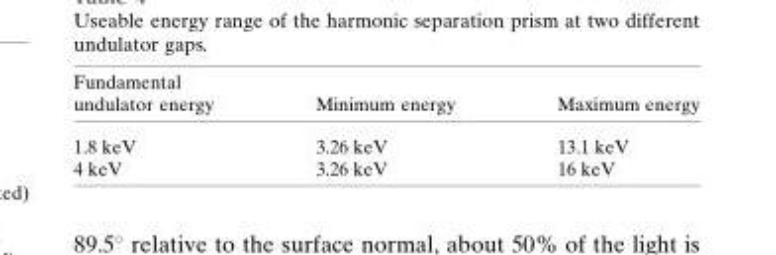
<table><thead><tr><td>Fundamental undulator energy</td><td>Minimum energy</td><td>Maximum energy</td></tr></thead><tbody><tr><td>1.8 keV</td><td>3.26 keV</td><td>13.1 keV</td></tr><tr><td>4 keV</td><td>3.26 keV</td><td>16 keV</td></tr></tbody></table>